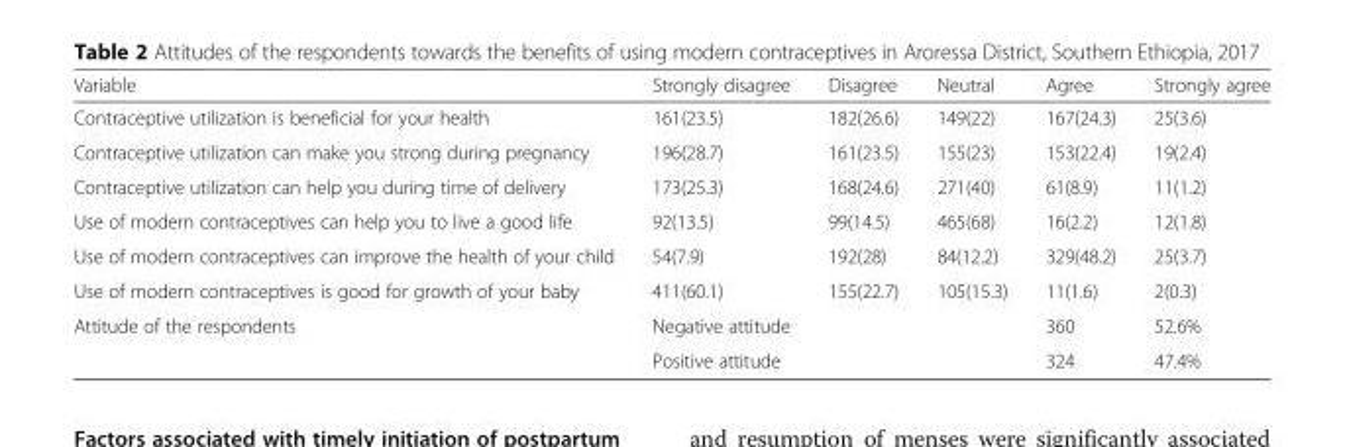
<table><thead><tr><td>Variable</td><td>Strongly disagree</td><td>Disagree</td><td>Neutral</td><td>Agree</td><td>Strongly agree</td></tr></thead><tbody><tr><td>Contraceptive utilization is beneficial for your health</td><td>161(23.5)</td><td>182(26.6)</td><td>149(22)</td><td>167(24.3)</td><td>25(3.6)</td></tr><tr><td>Contraceptive utilization can make you strong during pregnancy</td><td>196(28.7)</td><td>161(23.5)</td><td>155(23)</td><td>153(22.4)</td><td>19(2.4)</td></tr><tr><td>Contraceptive utilization can help you during time of delivery</td><td>173(25.3)</td><td>168(24.6)</td><td>271(40)</td><td>61(8.9)</td><td>11(1.2)</td></tr><tr><td>Use of modern contraceptives can help you to live a good life</td><td>92(13.5)</td><td>99(14.5)</td><td>465(68)</td><td>16(2.2)</td><td>12(1.8)</td></tr><tr><td>Use of modern contraceptives can improve the health of your child</td><td>54(7.9)</td><td>192(28)</td><td>84(12.2)</td><td>329(48.2)</td><td>25(3.7)</td></tr><tr><td>Use of modern contraceptives is good for growth of your baby</td><td>411(60.1)</td><td>155(22.7)</td><td>105(15.3)</td><td>11(1.6)</td><td>2(0.3)</td></tr><tr><td rowspan="2">Attitude of the respondents</td><td colspan="3">Negative attitude</td><td>360</td><td>52.6%</td></tr><tr><td colspan="3">Positive attitude</td><td>324</td><td>47.4%</td></tr></tbody></table>